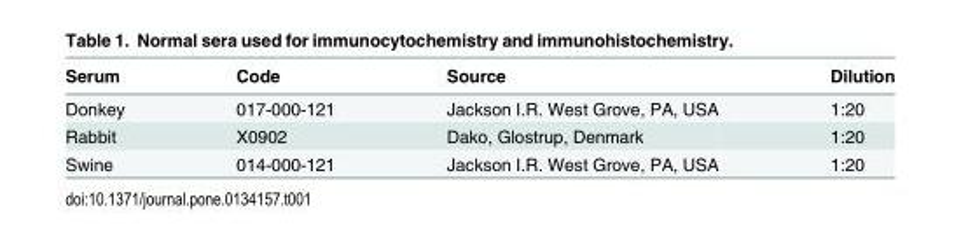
<table><thead><tr><td>Serum</td><td>Code</td><td>Source</td><td>Dilution</td></tr></thead><tbody><tr><td>Donkey</td><td>017-000-121</td><td>Jackson I.R. West Grove, PA, USA</td><td>1:20</td></tr><tr><td>Rabbit</td><td>X0902</td><td>Dako, Glostrup, Denmark</td><td>1:20</td></tr><tr><td>Swine</td><td>014-000-121</td><td>Jackson I.R. West Grove, PA, USA</td><td>1:20</td></tr></tbody></table>